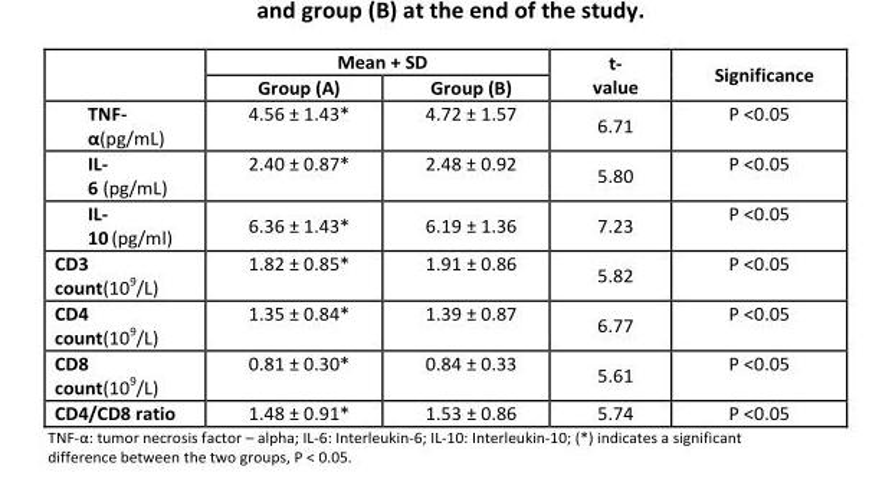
<table><thead><tr><td rowspan="2"></td><td colspan="2">Mean + SD</td><td rowspan="2">t- value</td><td rowspan="2">Significance</td></tr><tr><td>Group (A)</td><td>Group (B)</td></tr></thead><tbody><tr><td>TNF- α(pg/mL)</td><td>4.56 ± 1.43*</td><td>4.72 ± 1.57</td><td>6.71</td><td>P &lt;0.05</td></tr><tr><td>IL- 6 (pg/mL)</td><td>2.40 ± 0.87*</td><td>2.48 ± 0.92</td><td>5.80</td><td>P &lt;0.05</td></tr><tr><td>IL- 10 (pg/ml)</td><td>6.36 ± 1.43*</td><td>6.19 ± 1.36</td><td>7.23</td><td>P &lt;0.05</td></tr><tr><td>CD3 count(10<sup>9</sup>/L)</td><td>1.82 ± 0.85*</td><td>1.91 ± 0.86</td><td>5.82</td><td>P &lt;0.05</td></tr><tr><td>CD4 count(10<sup>9</sup>/L)</td><td>1.35 ± 0.84*</td><td>1.39 ± 0.87</td><td>6.77</td><td>P &lt;0.05</td></tr><tr><td>CD8 count(10<sup>9</sup>/L)</td><td>0.81 ± 0.30*</td><td>0.84 ± 0.33</td><td>5.61</td><td>P &lt;0.05</td></tr><tr><td>CD4/CD8 ratio</td><td>1.48 ± 0.91*</td><td>1.53 ± 0.86</td><td>5.74</td><td>P &lt;0.05</td></tr></tbody></table>